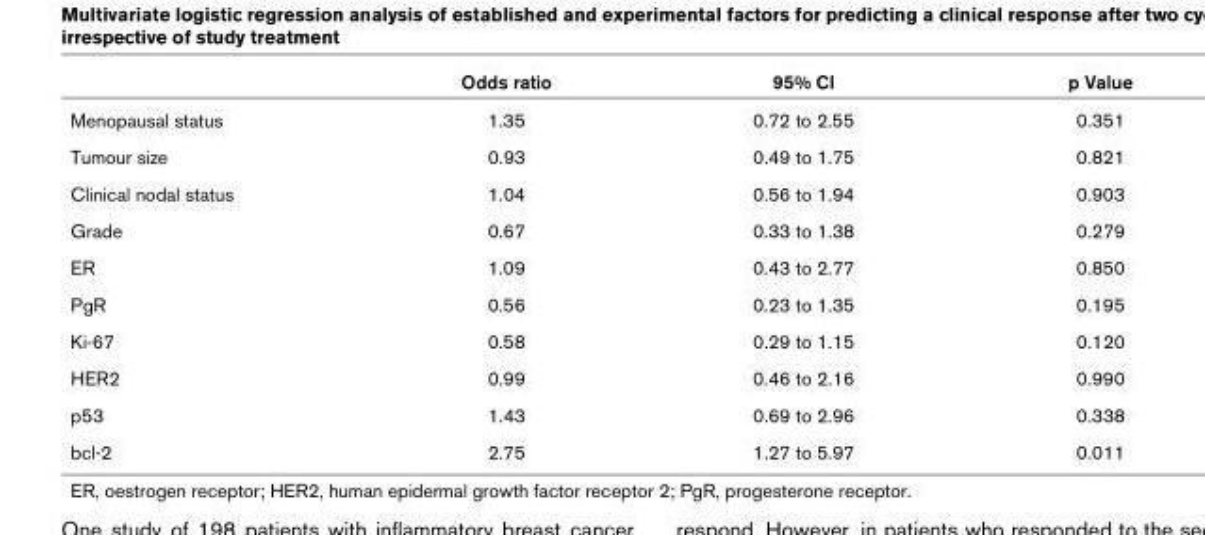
<table><thead><tr><td></td><td>Odds ratio</td><td>95% CI</td><td>p Value</td></tr></thead><tbody><tr><td>Menopausal status</td><td>1.35</td><td>0.72 to 2.55</td><td>0.351</td></tr><tr><td>Tumour size</td><td>0.93</td><td>0.49 to 1.75</td><td>0.821</td></tr><tr><td>Clinical nodal status</td><td>1.04</td><td>0.56 to 1.94</td><td>0.903</td></tr><tr><td>Grade</td><td>0.67</td><td>0.33 to 1.38</td><td>0.279</td></tr><tr><td>ER</td><td>1.09</td><td>0.43 to 2.77</td><td>0.850</td></tr><tr><td>PgR</td><td>0.56</td><td>0.23 to 1.35</td><td>0.195</td></tr><tr><td>Ki-67</td><td>0.58</td><td>0.29 to 1.15</td><td>0.120</td></tr><tr><td>HER2</td><td>0.99</td><td>0.46 to 2.16</td><td>0.990</td></tr><tr><td>p53</td><td>1.43</td><td>0.69 to 2.96</td><td>0.338</td></tr><tr><td>bcl-2</td><td>2.75</td><td>1.27 to 5.97</td><td>0.011</td></tr></tbody></table>